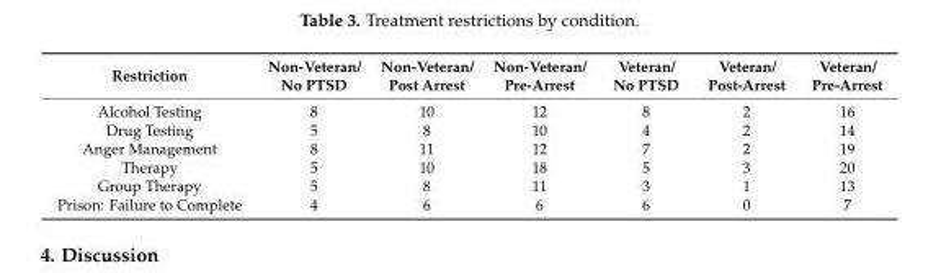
<table><thead><tr><td>Restriction</td><td>Non-Veteran/ No PTSD</td><td>Non-Veteran/ Post Arrest</td><td>Non-Veteran/ Pre-Arrest</td><td>Veteran/ No PTSD</td><td>Veteran/ Post-Arrest</td><td>Veteran/ Pre-Arrest</td></tr></thead><tbody><tr><td>Alcohol Testing</td><td>8</td><td>10</td><td>12</td><td>8</td><td>2</td><td>16</td></tr><tr><td>Drug Testing</td><td>5</td><td>8</td><td>10</td><td>4</td><td>2</td><td>14</td></tr><tr><td>Anger Management</td><td>8</td><td>11</td><td>12</td><td>7</td><td>2</td><td>19</td></tr><tr><td>Therapy</td><td>5</td><td>10</td><td>18</td><td>5</td><td>3</td><td>20</td></tr><tr><td>Group Therapy</td><td>5</td><td>8</td><td>11</td><td>3</td><td>1</td><td>13</td></tr><tr><td>Prison: Failure to Complete</td><td>4</td><td>6</td><td>6</td><td>6</td><td>0</td><td>7</td></tr></tbody></table>